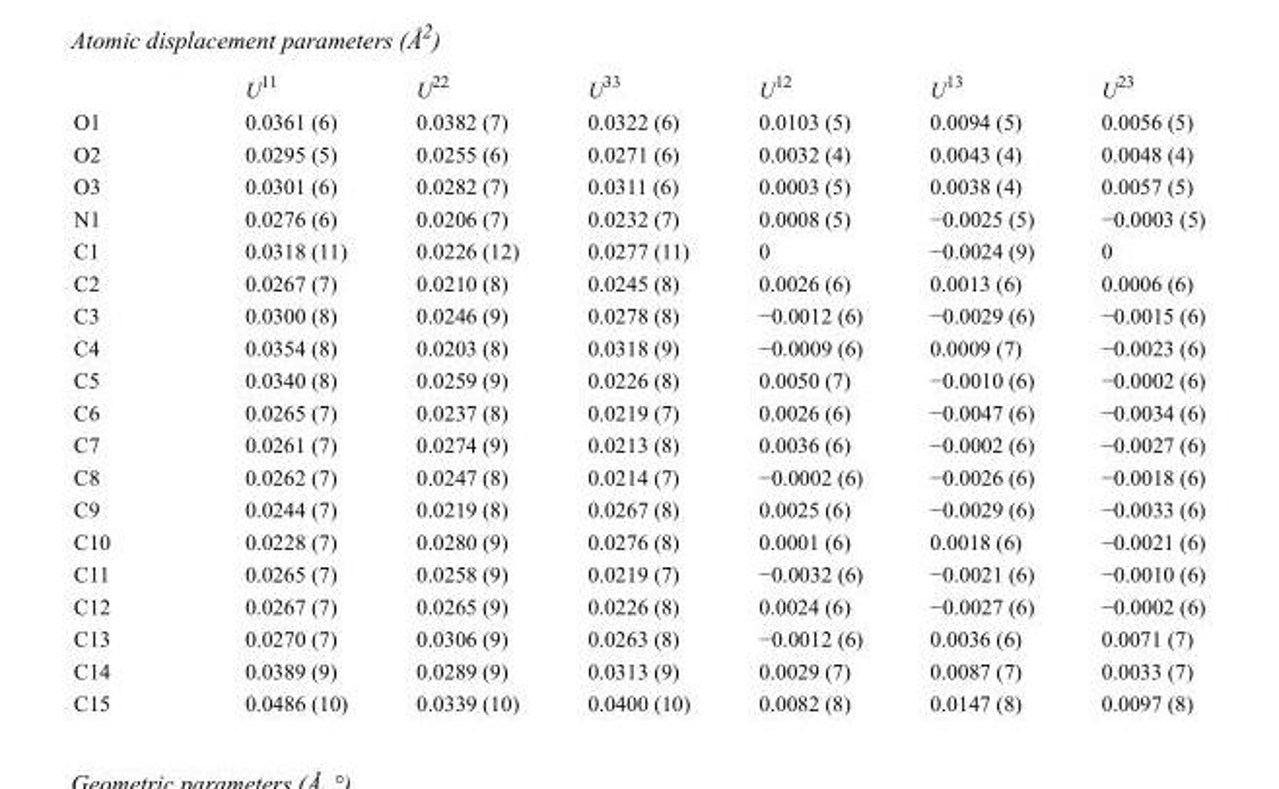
<table><thead><tr><td></td><td>U<sup>11</sup></td><td>U<sup>22</sup></td><td>U<sup>33</sup></td><td>U<sup>12</sup></td><td>U<sup>13</sup></td><td>U<sup>23</sup></td></tr></thead><tbody><tr><td>O1</td><td>0.0361 (6)</td><td>0.0382 (7)</td><td>0.0322 (6)</td><td>0.0103 (5)</td><td>0.0094 (5)</td><td>0.0056 (5)</td></tr><tr><td>O2</td><td>0.0295 (5)</td><td>0.0255 (6)</td><td>0.0271 (6)</td><td>0.0032 (4)</td><td>0.0043 (4)</td><td>0.0048 (4)</td></tr><tr><td>O3</td><td>0.0301 (6)</td><td>0.0282 (7)</td><td>0.0311 (6)</td><td>0.0003 (5)</td><td>0.0038 (4)</td><td>0.0057 (5)</td></tr><tr><td>N1</td><td>0.0276 (6)</td><td>0.0206 (7)</td><td>0.0232 (7)</td><td>0.0008 (5)</td><td>−0.0025 (5)</td><td>−0.0003 (5)</td></tr><tr><td>C1</td><td>0.0318 (11)</td><td>0.0226 (12)</td><td>0.0277 (11)</td><td>0</td><td>−0.0024 (9)</td><td>0</td></tr><tr><td>C2</td><td>0.0267 (7)</td><td>0.0210 (8)</td><td>0.0245 (8)</td><td>0.0026 (6)</td><td>0.0013 (6)</td><td>0.0006 (6)</td></tr><tr><td>C3</td><td>0.0300 (8)</td><td>0.0246 (9)</td><td>0.0278 (8)</td><td>−0.0012 (6)</td><td>−0.0029 (6)</td><td>−0.0015 (6)</td></tr><tr><td>C4</td><td>0.0354 (8)</td><td>0.0203 (8)</td><td>0.0318 (9)</td><td>−0.0009 (6)</td><td>0.0009 (7)</td><td>−0.0023 (6)</td></tr><tr><td>C5</td><td>0.0340 (8)</td><td>0.0259 (9)</td><td>0.0226 (8)</td><td>0.0050 (7)</td><td>−0.0010 (6)</td><td>−0.0002 (6)</td></tr><tr><td>C6</td><td>0.0265 (7)</td><td>0.0237 (8)</td><td>0.0219 (7)</td><td>0.0026 (6)</td><td>−0.0047 (6)</td><td>−0.0034 (6)</td></tr><tr><td>C7</td><td>0.0261 (7)</td><td>0.0274 (9)</td><td>0.0213 (8)</td><td>0.0036 (6)</td><td>−0.0002 (6)</td><td>−0.0027 (6)</td></tr><tr><td>C8</td><td>0.0262 (7)</td><td>0.0247 (8)</td><td>0.0214 (7)</td><td>−0.0002 (6)</td><td>−0.0026 (6)</td><td>−0.0018 (6)</td></tr><tr><td>C9</td><td>0.0244 (7)</td><td>0.0219 (8)</td><td>0.0267 (8)</td><td>0.0025 (6)</td><td>−0.0029 (6)</td><td>−0.0033 (6)</td></tr><tr><td>C10</td><td>0.0228 (7)</td><td>0.0280 (9)</td><td>0.0276 (8)</td><td>0.0001 (6)</td><td>0.0018 (6)</td><td>−0.0021 (6)</td></tr><tr><td>C11</td><td>0.0265 (7)</td><td>0.0258 (9)</td><td>0.0219 (7)</td><td>−0.0032 (6)</td><td>−0.0021 (6)</td><td>−0.0010 (6)</td></tr><tr><td>C12</td><td>0.0267 (7)</td><td>0.0265 (9)</td><td>0.0226 (8)</td><td>0.0024 (6)</td><td>−0.0027 (6)</td><td>−0.0002 (6)</td></tr><tr><td>C13</td><td>0.0270 (7)</td><td>0.0306 (9)</td><td>0.0263 (8)</td><td>−0.0012 (6)</td><td>0.0036 (6)</td><td>0.0071 (7)</td></tr><tr><td>C14</td><td>0.0389 (9)</td><td>0.0289 (9)</td><td>0.0313 (9)</td><td>0.0029 (7)</td><td>0.0087 (7)</td><td>0.0033 (7)</td></tr><tr><td>C15</td><td>0.0486 (10)</td><td>0.0339 (10)</td><td>0.0400 (10)</td><td>0.0082 (8)</td><td>0.0147 (8)</td><td>0.0097 (8)</td></tr></tbody></table>